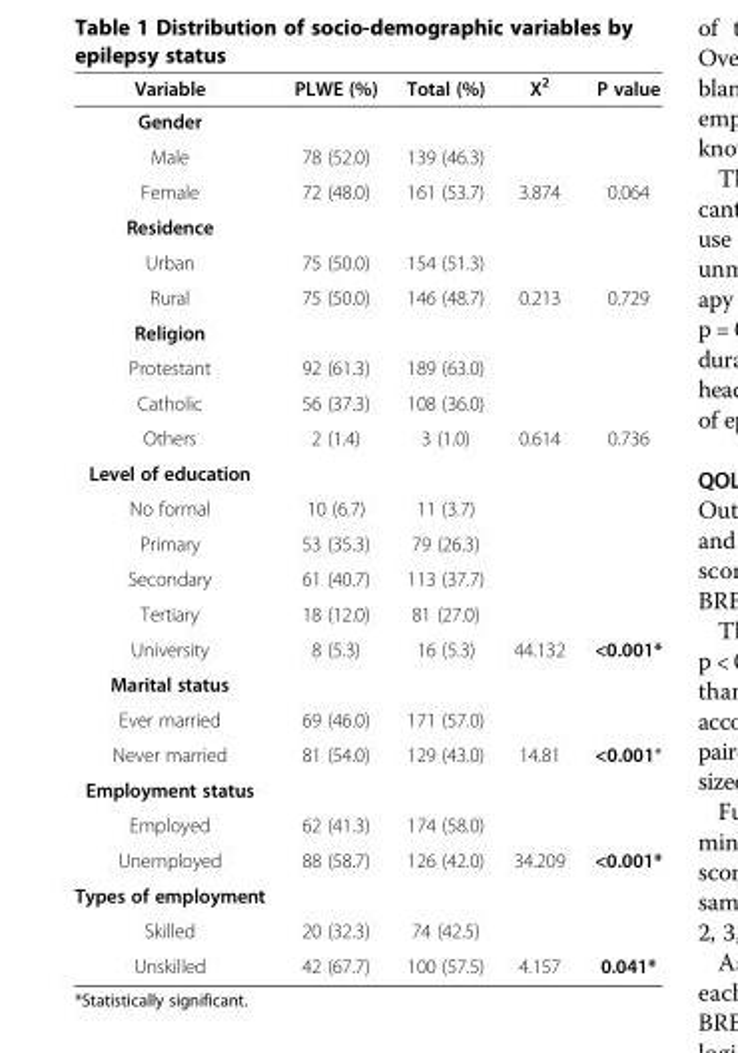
<table><thead><tr><td>Variable</td><td>PLWE (%)</td><td>Total (%)</td><td>X<sup>2</sup></td><td>P value</td></tr></thead><tbody><tr><td colspan="5">Gender</td></tr><tr><td>Male</td><td>78 (52.0)</td><td>139 (46.3)</td><td></td><td></td></tr><tr><td>Female</td><td>72 (48.0)</td><td>161 (53.7)</td><td>3.874</td><td>0.064</td></tr><tr><td colspan="5">Residence</td></tr><tr><td>Urban</td><td>75 (50.0)</td><td>154 (51.3)</td><td></td><td></td></tr><tr><td>Rural</td><td>75 (50.0)</td><td>146 (48.7)</td><td>0.213</td><td>0.729</td></tr><tr><td colspan="5">Religion</td></tr><tr><td>Protestant</td><td>92 (61.3)</td><td>189 (63.0)</td><td></td><td></td></tr><tr><td>Catholic</td><td>56 (37.3)</td><td>108 (36.0)</td><td></td><td></td></tr><tr><td>Others</td><td>2 (1.4)</td><td>3 (1.0)</td><td>0.614</td><td>0.736</td></tr><tr><td colspan="5">Level of education</td></tr><tr><td>No formal</td><td>10 (6.7)</td><td>11 (3.7)</td><td></td><td></td></tr><tr><td>Primary</td><td>53 (35.3)</td><td>79 (26.3)</td><td></td><td></td></tr><tr><td>Secondary</td><td>61 (40.7)</td><td>113 (37.7)</td><td></td><td></td></tr><tr><td>Tertiary</td><td>18 (12.0)</td><td>81 (27.0)</td><td></td><td></td></tr><tr><td>University</td><td>8 (5.3)</td><td>16 (5.3)</td><td>44.132</td><td>&lt;0.001*</td></tr><tr><td colspan="5">Marital status</td></tr><tr><td>Ever married</td><td>69 (46.0)</td><td>171 (57.0)</td><td></td><td></td></tr><tr><td>Never married</td><td>81 (54.0)</td><td>129 (43.0)</td><td>14.81</td><td>&lt;0.001*</td></tr><tr><td colspan="5">Employment status</td></tr><tr><td>Employed</td><td>62 (41.3)</td><td>174 (58.0)</td><td></td><td></td></tr><tr><td>Unemployed</td><td>88 (58.7)</td><td>126 (42.0)</td><td>34.209</td><td>&lt;0.001*</td></tr><tr><td colspan="5">Types of employment</td></tr><tr><td>Skilled</td><td>20 (32.3)</td><td>74 (42.5)</td><td></td><td></td></tr><tr><td>Unskilled</td><td>42 (67.7)</td><td>100 (57.5)</td><td>4.157</td><td>0.041*</td></tr></tbody></table>